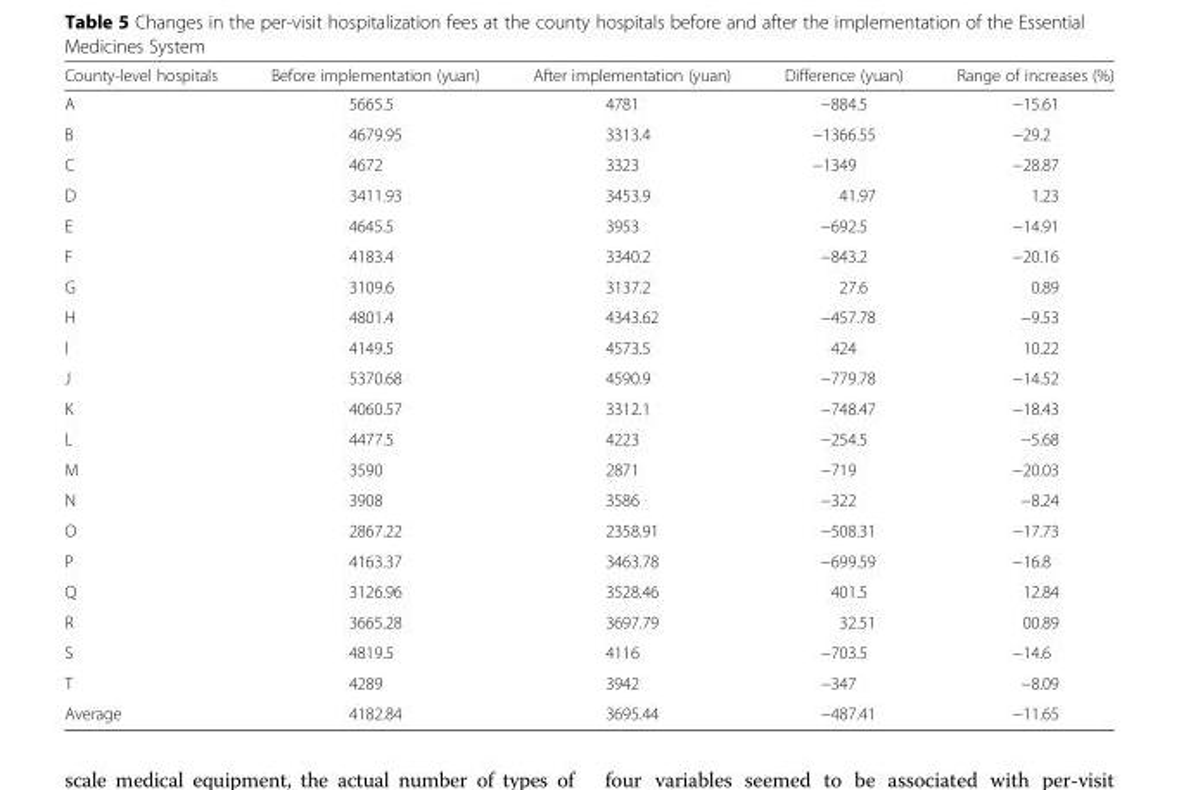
<table><thead><tr><td>County-level hospitals</td><td>Before implementation (yuan)</td><td>After implementation (yuan)</td><td>Difference (yuan)</td><td>Range of increases (%)</td></tr></thead><tbody><tr><td>A</td><td>5665.5</td><td>4781</td><td>−884.5</td><td>−15.61</td></tr><tr><td>B</td><td>4679.95</td><td>3313.4</td><td>−1366.55</td><td>−29.2</td></tr><tr><td>C</td><td>4672</td><td>3323</td><td>−1349</td><td>−28.87</td></tr><tr><td>D</td><td>3411.93</td><td>3453.9</td><td>41.97</td><td>1.23</td></tr><tr><td>E</td><td>4645.5</td><td>3953</td><td>−692.5</td><td>−14.91</td></tr><tr><td>F</td><td>4183.4</td><td>3340.2</td><td>−843.2</td><td>−20.16</td></tr><tr><td>G</td><td>3109.6</td><td>3137.2</td><td>27.6</td><td>0.89</td></tr><tr><td>H</td><td>4801.4</td><td>4343.62</td><td>−457.78</td><td>−9.53</td></tr><tr><td>I</td><td>4149.5</td><td>4573.5</td><td>424</td><td>10.22</td></tr><tr><td>J</td><td>5370.68</td><td>4590.9</td><td>−779.78</td><td>−14.52</td></tr><tr><td>K</td><td>4060.57</td><td>3312.1</td><td>−748.47</td><td>−18.43</td></tr><tr><td>L</td><td>4477.5</td><td>4223</td><td>−254.5</td><td>−5.68</td></tr><tr><td>M</td><td>3590</td><td>2871</td><td>−719</td><td>−20.03</td></tr><tr><td>N</td><td>3908</td><td>3586</td><td>−322</td><td>−8.24</td></tr><tr><td>O</td><td>2867.22</td><td>2358.91</td><td>−508.31</td><td>−17.73</td></tr><tr><td>P</td><td>4163.37</td><td>3463.78</td><td>−699.59</td><td>−16.8</td></tr><tr><td>Q</td><td>3126.96</td><td>3528.46</td><td>401.5</td><td>12.84</td></tr><tr><td>R</td><td>3665.28</td><td>3697.79</td><td>32.51</td><td>00.89</td></tr><tr><td>S</td><td>4819.5</td><td>4116</td><td>−703.5</td><td>−14.6</td></tr><tr><td>T</td><td>4289</td><td>3942</td><td>−347</td><td>−8.09</td></tr><tr><td>Average</td><td>4182.84</td><td>3695.44</td><td>−487.41</td><td>−11.65</td></tr></tbody></table>